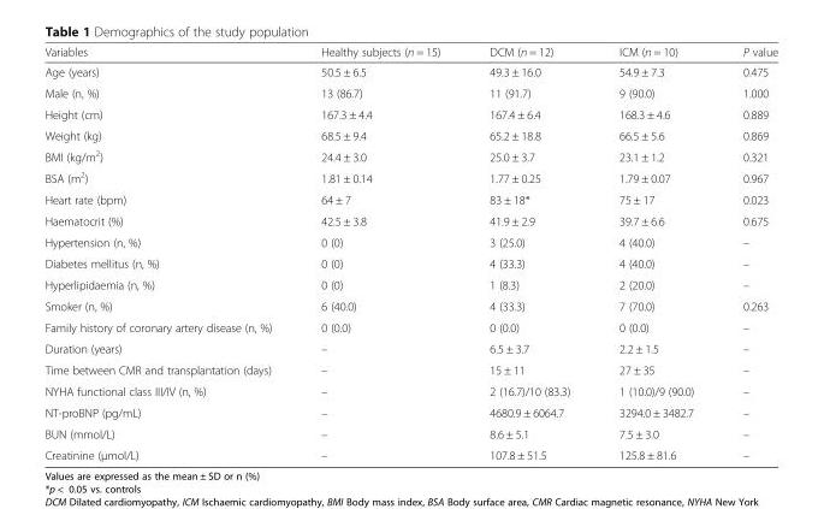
<table><thead><tr><td>Variables</td><td>Healthy subjects (n = 15)</td><td>DCM (n = 12)</td><td>ICM (n = 10)</td><td>P value</td></tr></thead><tbody><tr><td>Age (years)</td><td>50.5 ± 6.5</td><td>49.3 ± 16.0</td><td>54.9 ± 7.3</td><td>0.475</td></tr><tr><td>Male (n, %)</td><td>13 (86.7)</td><td>11 (91.7)</td><td>9 (90.0)</td><td>1.000</td></tr><tr><td>Height (cm)</td><td>167.3 ± 4.4</td><td>167.4 ± 6.4</td><td>168.3 ± 4.6</td><td>0.889</td></tr><tr><td>Weight (kg)</td><td>68.5 ± 9.4</td><td>65.2 ± 18.8</td><td>66.5 ± 5.6</td><td>0.869</td></tr><tr><td>BMI (kg/m<sup>2</sup>)</td><td>24.4 ± 3.0</td><td>25.0 ± 3.7</td><td>23.1 ± 1.2</td><td>0.321</td></tr><tr><td>BSA (m<sup>2</sup>)</td><td>1.81 ± 0.14</td><td>1.77 ± 0.25</td><td>1.79 ± 0.07</td><td>0.967</td></tr><tr><td>Heart rate (bpm)</td><td>64 ± 7</td><td>83 ± 18*</td><td>75 ± 17</td><td>0.023</td></tr><tr><td>Haematocrit (%)</td><td>42.5 ± 3.8</td><td>41.9 ± 2.9</td><td>39.7 ± 6.6</td><td>0.675</td></tr><tr><td>Hypertension (n, %)</td><td>0 (0)</td><td>3 (25.0)</td><td>4 (40.0)</td><td>–</td></tr><tr><td>Diabetes mellitus (n, %)</td><td>0 (0)</td><td>4 (33.3)</td><td>4 (40.0)</td><td>–</td></tr><tr><td>Hyperlipidaemia (n, %)</td><td>0 (0)</td><td>1 (8.3)</td><td>2 (20.0)</td><td>–</td></tr><tr><td>Smoker (n, %)</td><td>6 (40.0)</td><td>4 (33.3)</td><td>7 (70.0)</td><td>0.263</td></tr><tr><td>Family history of coronary artery disease (n, %)</td><td>0 (0.0)</td><td>0 (0.0)</td><td>0 (0.0)</td><td>–</td></tr><tr><td>Duration (years)</td><td>–</td><td>6.5 ± 3.7</td><td>2.2 ± 1.5</td><td>–</td></tr><tr><td>Time between CMR and transplantation (days)</td><td>–</td><td>15 ± 11</td><td>27 ± 35</td><td>–</td></tr><tr><td>NYHA functional class III/IV (n, %)</td><td>–</td><td>2 (16.7)/10 (83.3)</td><td>1 (10.0)/9 (90.0)</td><td>–</td></tr><tr><td>NT-proBNP (pg/mL)</td><td>–</td><td>4680.9 ± 6064.7</td><td>3294.0 ± 3482.7</td><td>–</td></tr><tr><td>BUN (mmol/L)</td><td>–</td><td>8.6 ± 5.1</td><td>7.5 ± 3.0</td><td>–</td></tr><tr><td>Creatinine (μmol/L)</td><td>–</td><td>107.8 ± 51.5</td><td>125.8 ± 81.6</td><td>–</td></tr></tbody></table>